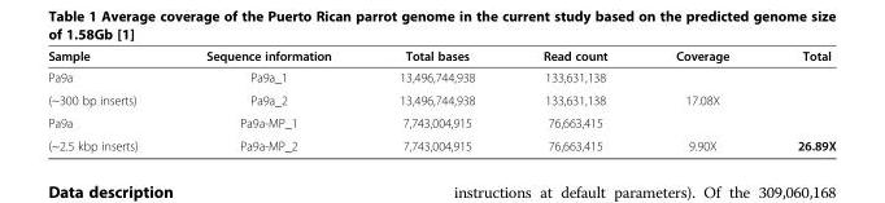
<table><thead><tr><td>Sample</td><td>Sequence information</td><td>Total bases</td><td>Read count</td><td>Coverage</td><td>Total</td></tr></thead><tbody><tr><td>Pa9a</td><td>Pa9a_1</td><td>13,496,744,938</td><td>133,631,138</td><td></td><td></td></tr><tr><td>(~300 bp inserts)</td><td>Pa9a_2</td><td>13,496,744,938</td><td>133,631,138</td><td>17.08X</td><td></td></tr><tr><td>Pa9a</td><td>Pa9a-MP_1</td><td>7,743,004,915</td><td>76,663,415</td><td></td><td></td></tr><tr><td>(~2.5 kbp inserts)</td><td>Pa9a-MP_2</td><td>7,743,004,915</td><td>76,663,415</td><td>9.90X</td><td>26.89X</td></tr></tbody></table>